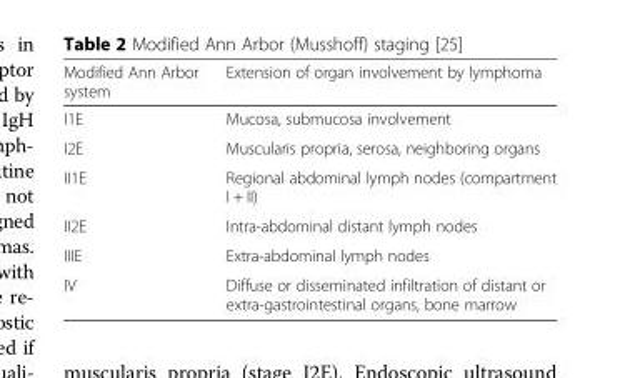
<table><thead><tr><td>Modified Ann Arbor system</td><td>Extension of organ involvement by lymphoma</td></tr></thead><tbody><tr><td>I1E</td><td>Mucosa, submucosa involvement</td></tr><tr><td>I2E</td><td>Muscularis propria, serosa, neighboring organs</td></tr><tr><td>II1E</td><td>Regional abdominal lymph nodes (compartment I + II)</td></tr><tr><td>II2E</td><td>Intra-abdominal distant lymph nodes</td></tr><tr><td>IIIE</td><td>Extra-abdominal lymph nodes</td></tr><tr><td>IV</td><td>Diffuse or disseminated infiltration of distant or extra-gastrointestinal organs, bone marrow</td></tr></tbody></table>